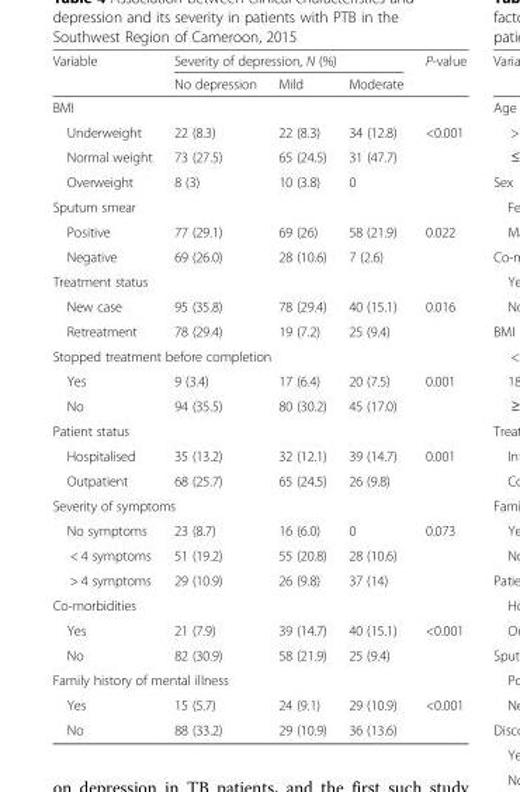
<table><thead><tr><td rowspan="2">Variable</td><td colspan="3">Severity of depression, N (%)</td><td rowspan="2">P-value</td></tr><tr><td>No depression</td><td>Mild</td><td>Moderate</td></tr></thead><tbody><tr><td colspan="5">BMI</td></tr><tr><td>Underweight</td><td>22 (8.3)</td><td>22 (8.3)</td><td>34 (12.8)</td><td rowspan="3">&lt;0.001</td></tr><tr><td>Normal weight</td><td>73 (27.5)</td><td>65 (24.5)</td><td>31 (47.7)</td></tr><tr><td>Overweight</td><td>8 (3)</td><td>10 (3.8)</td><td>0</td></tr><tr><td colspan="5">Sputum smear</td></tr><tr><td>Positive</td><td>77 (29.1)</td><td>69 (26)</td><td>58 (21.9)</td><td rowspan="2">0.022</td></tr><tr><td>Negative</td><td>69 (26.0)</td><td>28 (10.6)</td><td>7 (2.6)</td></tr><tr><td colspan="5">Treatment status</td></tr><tr><td>New case</td><td>95 (35.8)</td><td>78 (29.4)</td><td>40 (15.1)</td><td rowspan="2">0.016</td></tr><tr><td>Retreatment</td><td>78 (29.4)</td><td>19 (7.2)</td><td>25 (9.4)</td></tr><tr><td colspan="5">Stopped treatment before completion</td></tr><tr><td>Yes</td><td>9 (3.4)</td><td>17 (6.4)</td><td>20 (7.5)</td><td rowspan="2">0.001</td></tr><tr><td>No</td><td>94 (35.5)</td><td>80 (30.2)</td><td>45 (17.0)</td></tr><tr><td colspan="5">Patient status</td></tr><tr><td>Hospitalised</td><td>35 (13.2)</td><td>32 (12.1)</td><td>39 (14.7)</td><td rowspan="2">0.001</td></tr><tr><td>Outpatient</td><td>68 (25.7)</td><td>65 (24.5)</td><td>26 (9.8)</td></tr><tr><td colspan="5">Severity of symptoms</td></tr><tr><td>No symptoms</td><td>23 (8.7)</td><td>16 (6.0)</td><td>0</td><td rowspan="3">0.073</td></tr><tr><td>&lt; 4 symptoms</td><td>51 (19.2)</td><td>55 (20.8)</td><td>28 (10.6)</td></tr><tr><td>&gt; 4 symptoms</td><td>29 (10.9)</td><td>26 (9.8)</td><td>37 (14)</td></tr><tr><td colspan="5">Co-morbidities</td></tr><tr><td>Yes</td><td>21 (7.9)</td><td>39 (14.7)</td><td>40 (15.1)</td><td rowspan="2">&lt;0.001</td></tr><tr><td>No</td><td>82 (30.9)</td><td>58 (21.9)</td><td>25 (9.4)</td></tr><tr><td colspan="5">Family history of mental illness</td></tr><tr><td>Yes</td><td>15 (5.7)</td><td>24 (9.1)</td><td>29 (10.9)</td><td rowspan="2">&lt;0.001</td></tr><tr><td>No</td><td>88 (33.2)</td><td>29 (10.9)</td><td>36 (13.6)</td></tr></tbody></table>